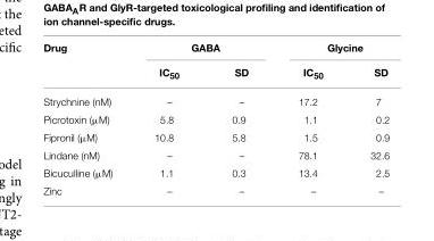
<table><thead><tr><td rowspan="2">Drug</td><td colspan="2">GABA</td><td colspan="2">Glycine</td></tr><tr><td>IC<sub>50</sub></td><td>SD</td><td>IC<sub>50</sub></td><td>SD</td></tr></thead><tbody><tr><td>Strychnine (nM)</td><td>–</td><td>–</td><td>17.2</td><td>7</td></tr><tr><td>Picrotoxin (µM)</td><td>5.8</td><td>0.9</td><td>1.1</td><td>0.2</td></tr><tr><td>Fipronil (µM)</td><td>10.8</td><td>5.8</td><td>1.5</td><td>0.9</td></tr><tr><td>Lindane (nM)</td><td>–</td><td>–</td><td>78.1</td><td>32.6</td></tr><tr><td>Bicuculline (µM)</td><td>1.1</td><td>0.3</td><td>13.4</td><td>2.5</td></tr><tr><td>Zinc</td><td>–</td><td>–</td><td>–</td><td>–</td></tr></tbody></table>